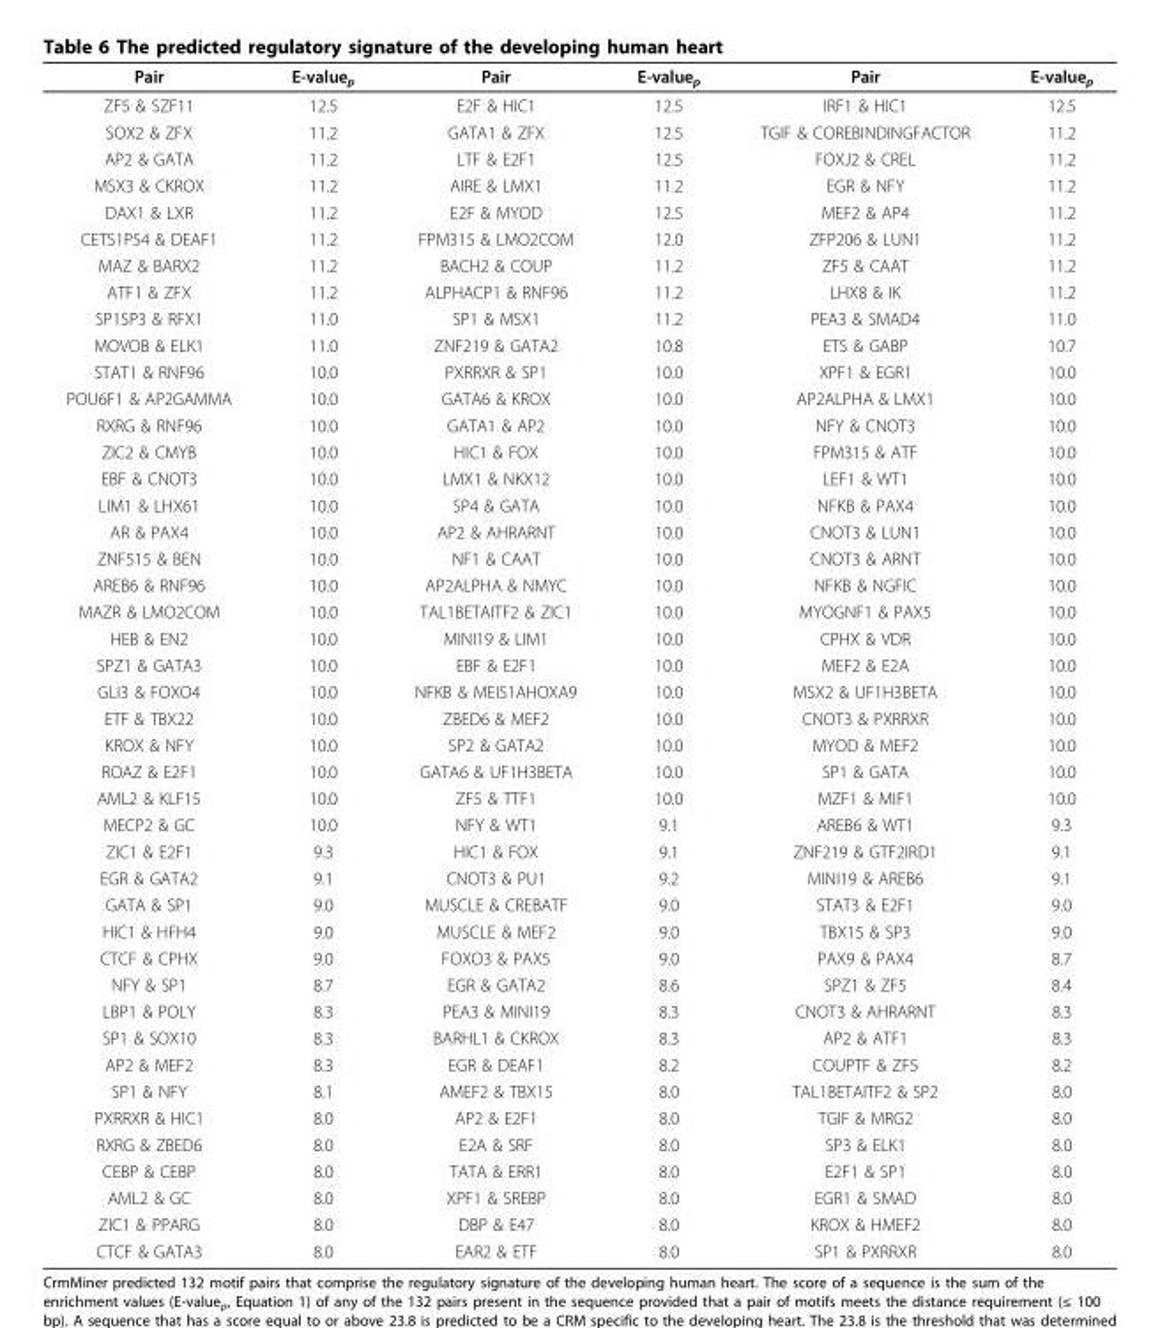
<table><thead><tr><td>Pair</td><td>E-value<sub>p</sub></td><td>Pair</td><td>E-value<sub>p</sub></td><td>Pair</td><td>E-value<sub>p</sub></td></tr></thead><tbody><tr><td>ZF5 &amp; SZF11</td><td>12.5</td><td>E2F &amp; HIC1</td><td>12.5</td><td>IRF1 &amp; HIC1</td><td>12.5</td></tr><tr><td>SOX2 &amp; ZFX</td><td>11.2</td><td>GATA1 &amp; ZFX</td><td>12.5</td><td>TGIF &amp; COREBINDINGFACTOR</td><td>11.2</td></tr><tr><td>AP2 &amp; GATA</td><td>11.2</td><td>LTF &amp; E2F1</td><td>12.5</td><td>FOXJ2 &amp; CREL</td><td>11.2</td></tr><tr><td>MSX3 &amp; CKROX</td><td>11.2</td><td>AIRE &amp; LMX1</td><td>11.2</td><td>EGR &amp; NFY</td><td>11.2</td></tr><tr><td>DAX1 &amp; LXR</td><td>11.2</td><td>E2F &amp; MYOD</td><td>12.5</td><td>MEF2 &amp; AP4</td><td>11.2</td></tr><tr><td>CETS1P54 &amp; DEAF1</td><td>11.2</td><td>FPM315 &amp; LMO2COM</td><td>12.0</td><td>ZFP206 &amp; LUN1</td><td>11.2</td></tr><tr><td>MAZ &amp; BARX2</td><td>11.2</td><td>BACH2 &amp; COUP</td><td>11.2</td><td>ZF5 &amp; CAAT</td><td>11.2</td></tr><tr><td>ATF1 &amp; ZFX</td><td>11.2</td><td>ALPHACP1 &amp; RNF96</td><td>11.2</td><td>LHX8 &amp; IK</td><td>11.2</td></tr><tr><td>SP1SP3 &amp; RFX1</td><td>11.0</td><td>SP1 &amp; MSX1</td><td>11.2</td><td>PEA3 &amp; SMAD4</td><td>11.0</td></tr><tr><td>MOVOB &amp; ELK1</td><td>11.0</td><td>ZNF219 &amp; GATA2</td><td>10.8</td><td>ETS &amp; GABP</td><td>10.7</td></tr><tr><td>STAT1 &amp; RNF96</td><td>10.0</td><td>PXRRXR &amp; SP1</td><td>10.0</td><td>XPF1 &amp; EGR1</td><td>10.0</td></tr><tr><td>POU6F1 &amp; AP2GAMMA</td><td>10.0</td><td>GATA6 &amp; KROX</td><td>10.0</td><td>AP2ALPHA &amp; LMX1</td><td>10.0</td></tr><tr><td>RXRG &amp; RNF96</td><td>10.0</td><td>GATA1 &amp; AP2</td><td>10.0</td><td>NFY &amp; CNOT3</td><td>10.0</td></tr><tr><td>ZIC2 &amp; CMYB</td><td>10.0</td><td>HIC1 &amp; FOX</td><td>10.0</td><td>FPM315 &amp; ATF</td><td>10.0</td></tr><tr><td>EBF &amp; CNOT3</td><td>10.0</td><td>LMX1 &amp; NKX12</td><td>10.0</td><td>LEF1 &amp; WT1</td><td>10.0</td></tr><tr><td>LIM1 &amp; LHX61</td><td>10.0</td><td>SP4 &amp; GATA</td><td>10.0</td><td>NFKB &amp; PAX4</td><td>10.0</td></tr><tr><td>AR &amp; PAX4</td><td>10.0</td><td>AP2 &amp; AHRARNT</td><td>10.0</td><td>CNOT3 &amp; LUN1</td><td>10.0</td></tr><tr><td>ZNF515 &amp; BEN</td><td>10.0</td><td>NF1 &amp; CAAT</td><td>10.0</td><td>CNOT3 &amp; ARNT</td><td>10.0</td></tr><tr><td>AREB6 &amp; RNF96</td><td>10.0</td><td>AP2ALPHA &amp; NMYC</td><td>10.0</td><td>NFKB &amp; NGFIC</td><td>10.0</td></tr><tr><td>MAZR &amp; LMO2COM</td><td>10.0</td><td>TAL1BETAITF2 &amp; ZIC1</td><td>10.0</td><td>MYOGNF1 &amp; PAX5</td><td>10.0</td></tr><tr><td>HEB &amp; EN2</td><td>10.0</td><td>MINI19 &amp; LIM1</td><td>10.0</td><td>CPHX &amp; VDR</td><td>10.0</td></tr><tr><td>SPZ1 &amp; GATA3</td><td>10.0</td><td>EBF &amp; E2F1</td><td>10.0</td><td>MEF2 &amp; E2A</td><td>10.0</td></tr><tr><td>GLI3 &amp; FOXO4</td><td>10.0</td><td>NFKB &amp; MEIS1AHOXA9</td><td>10.0</td><td>MSX2 &amp; UF1H3BETA</td><td>10.0</td></tr><tr><td>ETF &amp; TBX22</td><td>10.0</td><td>ZBED6 &amp; MEF2</td><td>10.0</td><td>CNOT3 &amp; PXRRXR</td><td>10.0</td></tr><tr><td>KROX &amp; NFY</td><td>10.0</td><td>SP2 &amp; GATA2</td><td>10.0</td><td>MYOD &amp; MEF2</td><td>10.0</td></tr><tr><td>ROAZ &amp; E2F1</td><td>10.0</td><td>GATA6 &amp; UF1H3BETA</td><td>10.0</td><td>SP1 &amp; GATA</td><td>10.0</td></tr><tr><td>AML2 &amp; KLF15</td><td>10.0</td><td>ZF5 &amp; TTF1</td><td>10.0</td><td>MZF1 &amp; MIF1</td><td>10.0</td></tr><tr><td>MECP2 &amp; GC</td><td>10.0</td><td>NFY &amp; WT1</td><td>9.1</td><td>AREB6 &amp; WT1</td><td>9.3</td></tr><tr><td>ZIC1 &amp; E2F1</td><td>9.3</td><td>HIC1 &amp; FOX</td><td>9.1</td><td>ZNF219 &amp; GTF2IRD1</td><td>9.1</td></tr><tr><td>EGR &amp; GATA2</td><td>9.1</td><td>CNOT3 &amp; PU1</td><td>9.2</td><td>MINI19 &amp; AREB6</td><td>9.1</td></tr><tr><td>GATA &amp; SP1</td><td>9.0</td><td>MUSCLE &amp; CREBATF</td><td>9.0</td><td>STAT3 &amp; E2F1</td><td>9.0</td></tr><tr><td>HIC1 &amp; HFH4</td><td>9.0</td><td>MUSCLE &amp; MEF2</td><td>9.0</td><td>TBX15 &amp; SP3</td><td>9.0</td></tr><tr><td>CTCF &amp; CPHX</td><td>9.0</td><td>FOXO3 &amp; PAX5</td><td>9.0</td><td>PAX9 &amp; PAX4</td><td>8.7</td></tr><tr><td>NFY &amp; SP1</td><td>8.7</td><td>EGR &amp; GATA2</td><td>8.6</td><td>SPZ1 &amp; ZF5</td><td>8.4</td></tr><tr><td>LBP1 &amp; POLY</td><td>8.3</td><td>PEA3 &amp; MINI19</td><td>8.3</td><td>CNOT3 &amp; AHRARNT</td><td>8.3</td></tr><tr><td>SP1 &amp; SOX10</td><td>8.3</td><td>BARHL1 &amp; CKROX</td><td>8.3</td><td>AP2 &amp; ATF1</td><td>8.3</td></tr><tr><td>AP2 &amp; MEF2</td><td>8.3</td><td>EGR &amp; DEAF1</td><td>8.2</td><td>COUPTF &amp; ZF5</td><td>8.2</td></tr><tr><td>SP1 &amp; NFY</td><td>8.1</td><td>AMEF2 &amp; TBX15</td><td>8.0</td><td>TAL1BETAITF2 &amp; SP2</td><td>8.0</td></tr><tr><td>PXRRXR &amp; HIC1</td><td>8.0</td><td>AP2 &amp; E2F1</td><td>8.0</td><td>TGIF &amp; MRG2</td><td>8.0</td></tr><tr><td>RXRG &amp; ZBED6</td><td>8.0</td><td>E2A &amp; SRF</td><td>8.0</td><td>SP3 &amp; ELK1</td><td>8.0</td></tr><tr><td>CEBP &amp; CEBP</td><td>8.0</td><td>TATA &amp; ERR1</td><td>8.0</td><td>E2F1 &amp; SP1</td><td>8.0</td></tr><tr><td>AML2 &amp; GC</td><td>8.0</td><td>XPF1 &amp; SREBP</td><td>8.0</td><td>EGR1 &amp; SMAD</td><td>8.0</td></tr><tr><td>ZIC1 &amp; PPARG</td><td>8.0</td><td>DBP &amp; E47</td><td>8.0</td><td>KROX &amp; HMEF2</td><td>8.0</td></tr><tr><td>CTCF &amp; GATA3</td><td>8.0</td><td>EAR2 &amp; ETF</td><td>8.0</td><td>SP1 &amp; PXRRXR</td><td>8.0</td></tr></tbody></table>